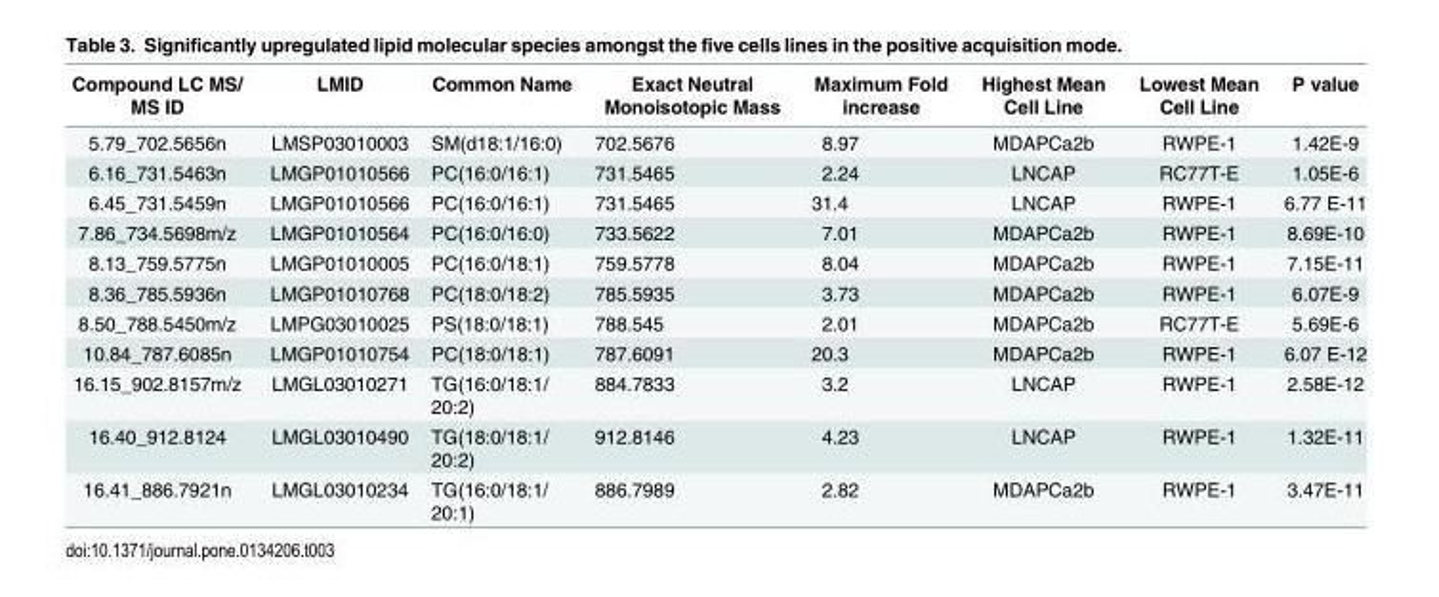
<table><thead><tr><td>Compound LC MS/ MS ID</td><td>LMID</td><td>Common Name</td><td>Exact Neutral Monoisotopic Mass</td><td>Maximum Fold increase</td><td>Highest Mean Cell Line</td><td>Lowest Mean Cell Line</td><td>P value</td></tr></thead><tbody><tr><td>5.79_702.5656n</td><td>LMSP03010003</td><td>SM(d18:1/16:0)</td><td>702.5676</td><td>8.97</td><td>MDAPCa2b</td><td>RWPE-1</td><td>1.42E-9</td></tr><tr><td>6.16_731.5463n</td><td>LMGP01010566</td><td>PC(16:0/16:1)</td><td>731.5465</td><td>2.24</td><td>LNCAP</td><td>RC77T-E</td><td>1.05E-6</td></tr><tr><td>6.45_731.5459n</td><td>LMGP01010566</td><td>PC(16:0/16:1)</td><td>731.5465</td><td>31.4</td><td>LNCAP</td><td>RWPE-1</td><td>6.77 E-11</td></tr><tr><td>7.86_734.5698m/z</td><td>LMGP01010564</td><td>PC(16:0/16:0)</td><td>733.5622</td><td>7.01</td><td>MDAPCa2b</td><td>RWPE-1</td><td>8.69E-10</td></tr><tr><td>8.13_759.5775n</td><td>LMGP01010005</td><td>PC(16:0/18:1)</td><td>759.5778</td><td>8.04</td><td>MDAPCa2b</td><td>RWPE-1</td><td>7.15E-11</td></tr><tr><td>8.36_785.5936n</td><td>LMGP01010768</td><td>PC(18:0/18:2)</td><td>785.5935</td><td>3.73</td><td>MDAPCa2b</td><td>RWPE-1</td><td>6.07E-9</td></tr><tr><td>8.50_788.5450m/z</td><td>LMPG03010025</td><td>PS(18:0/18:1)</td><td>788.545</td><td>2.01</td><td>MDAPCa2b</td><td>RC77T-E</td><td>5.69E-6</td></tr><tr><td>10.84_787.6085n</td><td>LMGP01010754</td><td>PC(18:0/18:1)</td><td>787.6091</td><td>20.3</td><td>MDAPCa2b</td><td>RWPE-1</td><td>6.07 E-12</td></tr><tr><td>16.15_902.8157m/z</td><td>LMGL03010271</td><td>TG(16:0/18:1/ 20:2)</td><td>884.7833</td><td>3.2</td><td>LNCAP</td><td>RWPE-1</td><td>2.58E-12</td></tr><tr><td>16.40_912.8124</td><td>LMGL03010490</td><td>TG(18:0/18:1/ 20:2)</td><td>912.8146</td><td>4.23</td><td>LNCAP</td><td>RWPE-1</td><td>1.32E-11</td></tr><tr><td>16.41_886.7921n</td><td>LMGL03010234</td><td>TG(16:0/18:1/ 20:1)</td><td>886.7989</td><td>2.82</td><td>MDAPCa2b</td><td>RWPE-1</td><td>3.47E-11</td></tr></tbody></table>